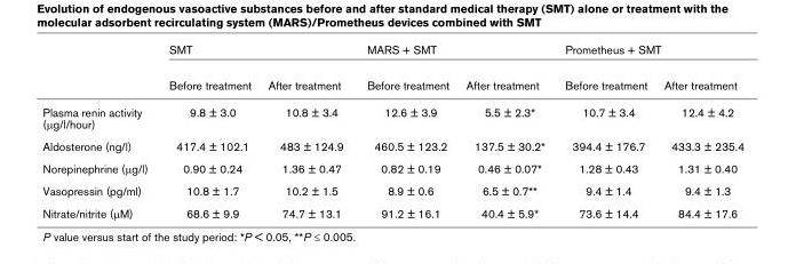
<table><thead><tr><td rowspan="2"></td><td colspan="2">SMT</td><td colspan="2">MARS + SMT</td><td colspan="2">Prometheus + SMT</td></tr><tr><td>Before treatment</td><td>After treatment</td><td>Before treatment</td><td>After treatment</td><td>Before treatment</td><td>After treatment</td></tr></thead><tbody><tr><td>Plasma renin activity (µg/l/hour)</td><td>9.8 ± 3.0</td><td>10.8 ± 3.4</td><td>12.6 ± 3.9</td><td>5.5 ± 2.3*</td><td>10.7 ± 3.4</td><td>12.4 ± 4.2</td></tr><tr><td>Aldosterone (ng/l)</td><td>417.4 ± 102.1</td><td>483 ± 124.9</td><td>460.5 ± 123.2</td><td>137.5 ± 30.2*</td><td>394.4 ± 176.7</td><td>433.3 ± 235.4</td></tr><tr><td>Norepinephrine (µg/l)</td><td>0.90 ± 0.24</td><td>1.36 ± 0.47</td><td>0.82 ± 0.19</td><td>0.46 ± 0.07*</td><td>1.28 ± 0.43</td><td>1.31 ± 0.40</td></tr><tr><td>Vasopressin (pg/ml)</td><td>10.8 ± 1.7</td><td>10.2 ± 1.5</td><td>8.9 ± 0.6</td><td>6.5 ± 0.7**</td><td>9.4 ± 1.4</td><td>9.4 ± 1.3</td></tr><tr><td>Nitrate/nitrite (µM)</td><td>68.6 ± 9.9</td><td>74.7 ± 13.1</td><td>91.2 ± 16.1</td><td>40.4 ± 5.9*</td><td>73.6 ± 14.4</td><td>84.4 ± 17.6</td></tr></tbody></table>